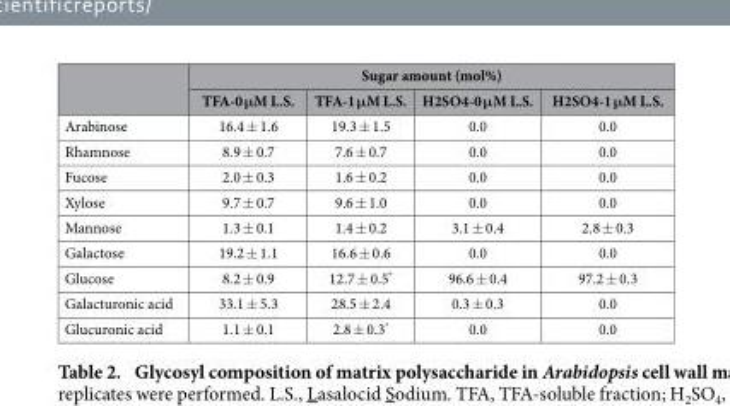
<table><thead><tr><td rowspan="2"></td><td colspan="4">Sugar amount (mol%)</td></tr><tr><td>TFA-0 μM L.S.</td><td>TFA-1 μM L.S.</td><td>H2SO4-0 μM L.S.</td><td>H2SO4-1 μM L.S.</td></tr></thead><tbody><tr><td>Arabinose</td><td>16.4 ± 1.6</td><td>19.3 ± 1.5</td><td>0.0</td><td>0.0</td></tr><tr><td>Rhamnose</td><td>8.9 ± 0.7</td><td>7.6 ± 0.7</td><td>0.0</td><td>0.0</td></tr><tr><td>Fucose</td><td>2.0 ± 0.3</td><td>1.6 ± 0.2</td><td>0.0</td><td>0.0</td></tr><tr><td>Xylose</td><td>9.7 ± 0.7</td><td>9.6 ± 1.0</td><td>0.0</td><td>0.0</td></tr><tr><td>Mannose</td><td>1.3 ± 0.1</td><td>1.4 ± 0.2</td><td>3.1 ± 0.4</td><td>2.8 ± 0.3</td></tr><tr><td>Galactose</td><td>19.2 ± 1.1</td><td>16.6 ± 0.6</td><td>0.0</td><td>0.0</td></tr><tr><td>Glucose</td><td>8.2 ± 0.9</td><td>12.7 ± 0.5*</td><td>96.6 ± 0.4</td><td>97.2 ± 0.3</td></tr><tr><td>Galacturonic acid</td><td>33.1 ± 5.3</td><td>28.5 ± 2.4</td><td>0.3 ± 0.3</td><td>0.0</td></tr><tr><td>Glucuronic acid</td><td>1.1 ± 0.1</td><td>2.8 ± 0.3*</td><td>0.0</td><td>0.0</td></tr></tbody></table>